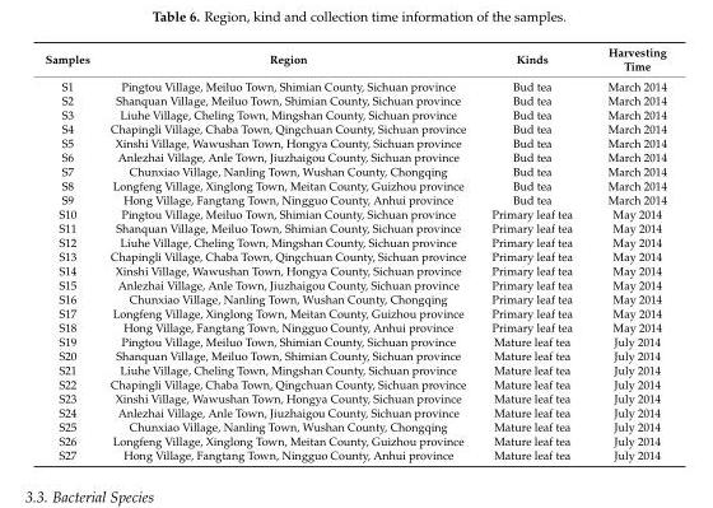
<table><thead><tr><td>Samples</td><td>Region</td><td>Kinds</td><td>Harvesting Time</td></tr></thead><tbody><tr><td>S1</td><td>Pingtou Village, Meiluo Town, Shimian County, Sichuan province</td><td>Bud tea</td><td>March 2014</td></tr><tr><td>S2</td><td>Shanquan Village, Meiluo Town, Shimian County, Sichuan province</td><td>Bud tea</td><td>March 2014</td></tr><tr><td>S3</td><td>Liuhe Village, Cheling Town, Mingshan County, Sichuan province</td><td>Bud tea</td><td>March 2014</td></tr><tr><td>S4</td><td>Chapingli Village, Chaba Town, Qingchuan County, Sichuan province</td><td>Bud tea</td><td>March 2014</td></tr><tr><td>S5</td><td>Xinshi Village, Wawushan Town, Hongya County, Sichuan province</td><td>Bud tea</td><td>March 2014</td></tr><tr><td>S6</td><td>Anlezhai Village, Anle Town, Jiuzhaigou County, Sichuan province</td><td>Bud tea</td><td>March 2014</td></tr><tr><td>S7</td><td>Chunxiao Village, Nanling Town, Wushan County, Chongqing</td><td>Bud tea</td><td>March 2014</td></tr><tr><td>S8</td><td>Longfeng Village, Xinglong Town, Meitan County, Guizhou province</td><td>Bud tea</td><td>March 2014</td></tr><tr><td>S9</td><td>Hong Village, Fangtang Town, Ningguo County, Anhui province</td><td>Bud tea</td><td>March 2014</td></tr><tr><td>S10</td><td>Pingtou Village, Meiluo Town, Shimian County, Sichuan province</td><td>Primary leaf tea</td><td>May 2014</td></tr><tr><td>S11</td><td>Shanquan Village, Meiluo Town, Shimian County, Sichuan province</td><td>Primary leaf tea</td><td>May 2014</td></tr><tr><td>S12</td><td>Liuhe Village, Cheling Town, Mingshan County, Sichuan province</td><td>Primary leaf tea</td><td>May 2014</td></tr><tr><td>S13</td><td>Chapingli Village, Chaba Town, Qingchuan County, Sichuan province</td><td>Primary leaf tea</td><td>May 2014</td></tr><tr><td>S14</td><td>Xinshi Village, Wawushan Town, Hongya County, Sichuan province</td><td>Primary leaf tea</td><td>May 2014</td></tr><tr><td>S15</td><td>Anlezhai Village, Anle Town, Jiuzhaigou County, Sichuan province</td><td>Primary leaf tea</td><td>May 2014</td></tr><tr><td>S16</td><td>Chunxiao Village, Nanling Town, Wushan County, Chongqing</td><td>Primary leaf tea</td><td>May 2014</td></tr><tr><td>S17</td><td>Longfeng Village, Xinglong Town, Meitan County, Guizhou province</td><td>Primary leaf tea</td><td>May 2014</td></tr><tr><td>S18</td><td>Hong Village, Fangtang Town, Ningguo County, Anhui province</td><td>Primary leaf tea</td><td>May 2014</td></tr><tr><td>S19</td><td>Pingtou Village, Meiluo Town, Shimian County, Sichuan province</td><td>Mature leaf tea</td><td>July 2014</td></tr><tr><td>S20</td><td>Shanquan Village, Meiluo Town, Shimian County, Sichuan province</td><td>Mature leaf tea</td><td>July 2014</td></tr><tr><td>S21</td><td>Liuhe Village, Cheling Town, Mingshan County, Sichuan province</td><td>Mature leaf tea</td><td>July 2014</td></tr><tr><td>S22</td><td>Chapingli Village, Chaba Town, Qingchuan County, Sichuan province</td><td>Mature leaf tea</td><td>July 2014</td></tr><tr><td>S23</td><td>Xinshi Village, Wawushan Town, Hongya County, Sichuan province</td><td>Mature leaf tea</td><td>July 2014</td></tr><tr><td>S24</td><td>Anlezhai Village, Anle Town, Jiuzhaigou County, Sichuan province</td><td>Mature leaf tea</td><td>July 2014</td></tr><tr><td>S25</td><td>Chunxiao Village, Nanling Town, Wushan County, Chongqing</td><td>Mature leaf tea</td><td>July 2014</td></tr><tr><td>S26</td><td>Longfeng Village, Xinglong Town, Meitan County, Guizhou province</td><td>Mature leaf tea</td><td>July 2014</td></tr><tr><td>S27</td><td>Hong Village, Fangtang Town, Ningguo County, Anhui province</td><td>Mature leaf tea</td><td>July 2014</td></tr></tbody></table>